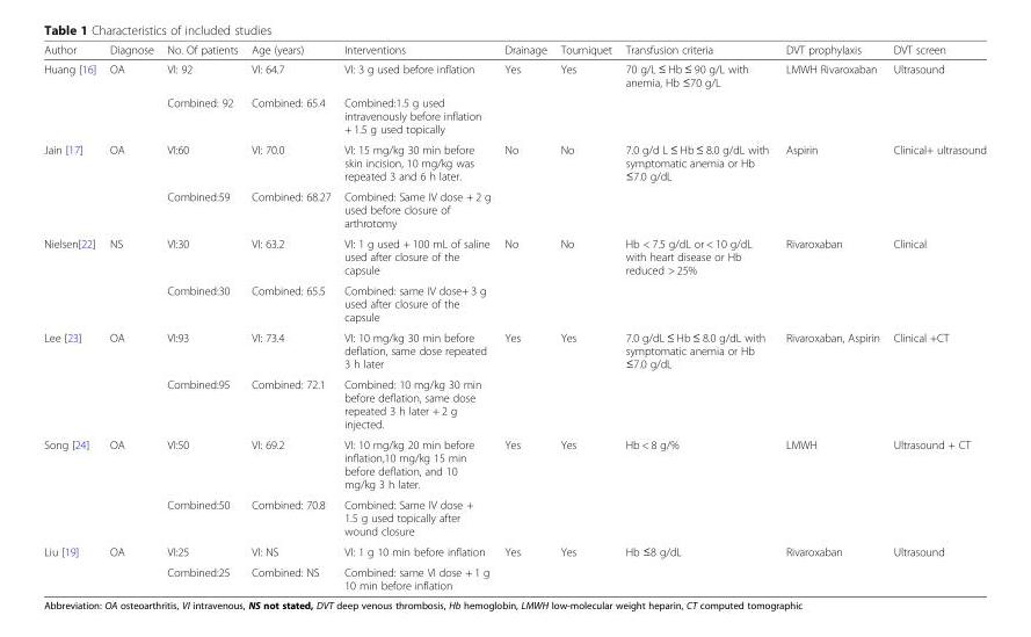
<table><thead><tr><td>Author</td><td>Diagnose</td><td>No. Of patients</td><td>Age (years)</td><td>Interventions</td><td>Drainage</td><td>Tourniquet</td><td>Transfusion criteria</td><td>DVT prophylaxis</td><td>DVT screen</td></tr></thead><tbody><tr><td rowspan="2">Huang [16]</td><td>OA</td><td>VI: 92</td><td>VI: 64.7</td><td>VI: 3 g used before inflation</td><td>Yes</td><td>Yes</td><td>70 g/L ≤ Hb ≤ 90 g/L with anemia, Hb ≤70 g/L</td><td>LMWH Rivaroxaban</td><td>Ultrasound</td></tr><tr><td></td><td>Combined: 92</td><td>Combined: 65.4</td><td>Combined:1.5 g used intravenously before inflation + 1.5 g used topically</td><td></td><td></td><td></td><td></td><td></td></tr><tr><td rowspan="2">Jain [17]</td><td>OA</td><td>VI:60</td><td>VI: 70.0</td><td>VI: 15 mg/kg 30 min before skin incision, 10 mg/kg was repeated 3 and 6 h later.</td><td>No</td><td>No</td><td>7.0 g/d L ≤ Hb ≤ 8.0 g/dL with symptomatic anemia or Hb ≤7.0 g/dL</td><td>Aspirin</td><td>Clinical+ ultrasound</td></tr><tr><td></td><td>Combined:59</td><td>Combined: 68.27</td><td>Combined: Same IV dose + 2 g used before closure of arthrotomy</td><td></td><td></td><td></td><td></td><td></td></tr><tr><td rowspan="2">Nielsen[22]</td><td>NS</td><td>VI:30</td><td>VI: 63.2</td><td>VI: 1 g used + 100 mL of saline used after closure of the capsule</td><td>No</td><td>No</td><td>Hb &lt; 7.5 g/dL or &lt; 10 g/dL with heart disease or Hb reduced &gt; 25%</td><td>Rivaroxaban</td><td>Clinical</td></tr><tr><td></td><td>Combined:30</td><td>Combined: 65.5</td><td>Combined: same IV dose+ 3 g used after closure of the capsule</td><td></td><td></td><td></td><td></td><td></td></tr><tr><td rowspan="2">Lee [23]</td><td>OA</td><td>VI:93</td><td>VI: 73.4</td><td>VI: 10 mg/kg 30 min before deflation, same dose repeated 3 h later</td><td>Yes</td><td>Yes</td><td>7.0 g/dL ≤ Hb ≤ 8.0 g/dL with symptomatic anemia or Hb ≤7.0 g/dL</td><td>Rivaroxaban, Aspirin</td><td>Clinical +CT</td></tr><tr><td></td><td>Combined:95</td><td>Combined: 72.1</td><td>Combined: 10 mg/kg 30 min before deflation, same dose repeated 3 h later + 2 g injected.</td><td></td><td></td><td></td><td></td><td></td></tr><tr><td rowspan="2">Song [24]</td><td>OA</td><td>VI:50</td><td>VI: 69.2</td><td>VI: 10 mg/kg 20 min before inflation,10 mg/kg 15 min before deflation, and 10 mg/kg 3 h later.</td><td>Yes</td><td>Yes</td><td>Hb &lt; 8 g/%</td><td>LMWH</td><td>Ultrasound + CT</td></tr><tr><td></td><td>Combined:50</td><td>Combined: 70.8</td><td>Combined: Same IV dose + 1.5 g used topically after wound closure</td><td></td><td></td><td></td><td></td><td></td></tr><tr><td rowspan="2">Liu [19]</td><td>OA</td><td>VI:25</td><td>VI: NS</td><td>VI: 1 g 10 min before inflation</td><td>Yes</td><td>Yes</td><td>Hb ≤8 g/dL</td><td>Rivaroxaban</td><td>Ultrasound</td></tr><tr><td></td><td>Combined:25</td><td>Combined: NS</td><td>Combined: same VI dose + 1 g 10 min before inflation</td><td></td><td></td><td></td><td></td><td></td></tr></tbody></table>